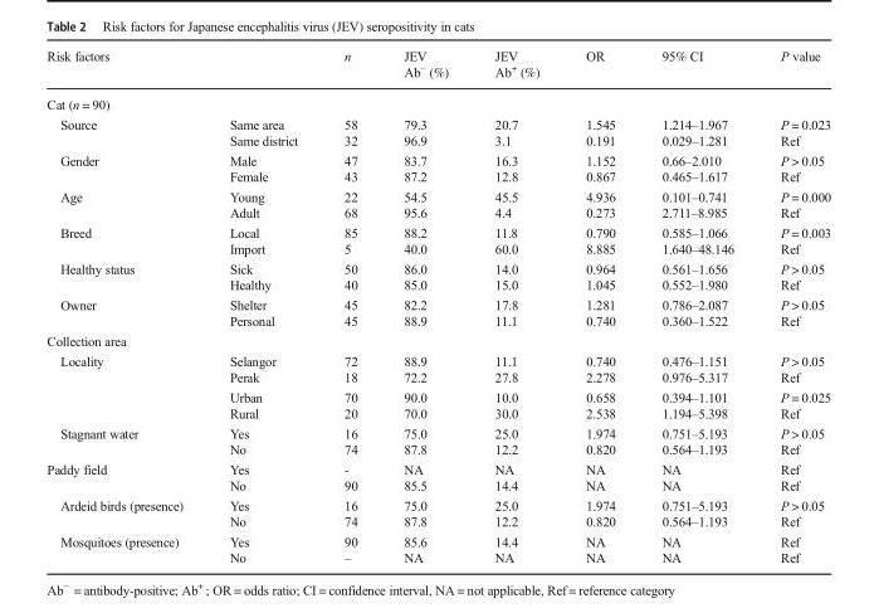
<table><thead><tr><td colspan="2">Risk factors</td><td>n</td><td>JEV Ab<sup>−</sup> (%)</td><td>JEV Ab<sup>+</sup> (%)</td><td>OR</td><td>95% CI</td><td>P value</td></tr><tr><td colspan="8">Cat (n = 90)</td></tr><tr><td>Source</td><td>Same area Same district</td><td>58 32</td><td>79.3 96.9</td><td>20.7 3.1</td><td>1.545 0.191</td><td>1.214–1.967 0.029–1.281</td><td>P = 0.023 Ref</td></tr></thead><tbody><tr><td>Gender</td><td>Male Female</td><td>47 43</td><td>83.7 87.2</td><td>16.3 12.8</td><td>1.152 0.867</td><td>0.66–2.010 0.465–1.617</td><td>P &gt; 0.05 Ref</td></tr><tr><td>Age</td><td>Young Adult</td><td>22 68</td><td>54.5 95.6</td><td>45.5 4.4</td><td>4.936 0.273</td><td>0.101–0.741 2.711–8.985</td><td>P = 0.000 Ref</td></tr><tr><td>Breed</td><td>Local Import</td><td>85 5</td><td>88.2 40.0</td><td>11.8 60.0</td><td>0.790 8.885</td><td>0.585–1.066 1.640–48.146</td><td>P = 0.003 Ref</td></tr><tr><td>Healthy status</td><td>Sick Healthy</td><td>50 40</td><td>86.0 85.0</td><td>14.0 15.0</td><td>0.964 1.045</td><td>0.561–1.656 0.552–1.980</td><td>P &gt; 0.05 Ref</td></tr><tr><td>Owner</td><td>Shelter Personal</td><td>45 45</td><td>82.2 88.9</td><td>17.8 11.1</td><td>1.281 0.740</td><td>0.786–2.087 0.360–1.522</td><td>P &gt; 0.05 Ref</td></tr><tr><td colspan="8">Collection area</td></tr><tr><td rowspan="2">Locality</td><td>Selangor Perak</td><td>72 18</td><td>88.9 72.2</td><td>11.1 27.8</td><td>0.740 2.278</td><td>0.476–1.151 0.976–5.317</td><td>P &gt; 0.05 Ref</td></tr><tr><td>Urban Rural</td><td>70 20</td><td>90.0 70.0</td><td>10.0 30.0</td><td>0.658 2.538</td><td>0.394–1.101 1.194–5.398</td><td>P = 0.025 Ref</td></tr><tr><td>Stagnant water</td><td>Yes No</td><td>16 74</td><td>75.0 87.8</td><td>25.0 12.2</td><td>1.974 0.820</td><td>0.751–5.193 0.564–1.193</td><td>P &gt; 0.05 Ref</td></tr><tr><td>Paddy field</td><td>Yes No</td><td>- 90</td><td>NA 85.5</td><td>NA 14.4</td><td>NA NA</td><td>NA NA</td><td>Ref Ref</td></tr><tr><td>Ardeid birds (presence)</td><td>Yes No</td><td>16 74</td><td>75.0 87.8</td><td>25.0 12.2</td><td>1.974 0.820</td><td>0.751–5.193 0.564–1.193</td><td>P &gt; 0.05 Ref</td></tr><tr><td>Mosquitoes (presence)</td><td>Yes No</td><td>90 –</td><td>85.6 NA</td><td>14.4 NA</td><td>NA NA</td><td>NA NA</td><td>Ref Ref</td></tr></tbody></table>